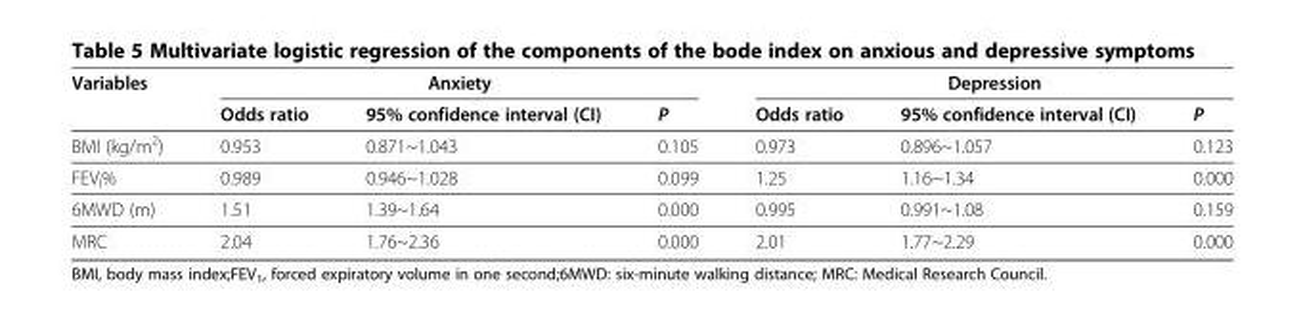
<table><thead><tr><td rowspan="2">Variables</td><td colspan="3">Anxiety</td><td colspan="3">Depression</td></tr><tr><td>Odds ratio</td><td>95% confidence interval (CI)</td><td>P</td><td>Odds ratio</td><td>95% confidence interval (CI)</td><td>P</td></tr></thead><tbody><tr><td>BMI (kg/m<sup>2</sup>)</td><td>0.953</td><td>0.871~1.043</td><td>0.105</td><td>0.973</td><td>0.896~1.057</td><td>0.123</td></tr><tr><td>FEV<sub>l</sub>%</td><td>0.989</td><td>0.946~1.028</td><td>0.099</td><td>1.25</td><td>1.16~1.34</td><td>0.000</td></tr><tr><td>6MWD (m)</td><td>1.51</td><td>1.39~1.64</td><td>0.000</td><td>0.995</td><td>0.991~1.08</td><td>0.159</td></tr><tr><td>MRC</td><td>2.04</td><td>1.76~2.36</td><td>0.000</td><td>2.01</td><td>1.77~2.29</td><td>0.000</td></tr></tbody></table>